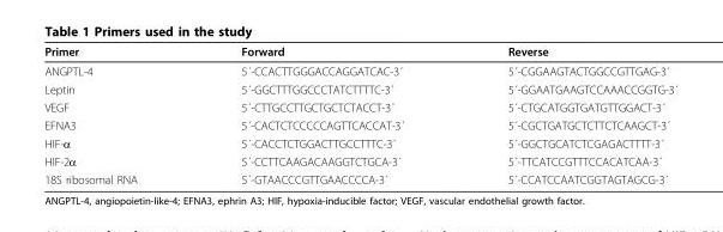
<table><thead><tr><td>Primer</td><td>Forward</td><td>Reverse</td></tr></thead><tbody><tr><td>ANGPTL-4</td><td>5´-CCACTTGGGACCAGGATCAC-3´</td><td>5´-CGGAAGTACTGGCCGTTGAG-3´</td></tr><tr><td>Leptin</td><td>5´-GGCTTTGGCCCTATCTTTTC-3´</td><td>5´-GGAATGAAGTCCAAACCGGTG-3´</td></tr><tr><td>VEGF</td><td>5´-CTTGCCTTGCTGCTCTACCT-3´</td><td>5´-CTGCATGGTGATGTTGGACT-3´</td></tr><tr><td>EFNA3</td><td>5´-CACTCTCCCCCAGTTCACCAT-3´</td><td>5´-CGCTGATGCTCTTCTCAAGCT-3´</td></tr><tr><td>HIF-α</td><td>5´-CACCTCTGGACTTGCCTTTC-3´</td><td>5´-GGCTGCATCTCGAGACTTTT-3´</td></tr><tr><td>HIF-2α</td><td>5´-CCTTCAAGACAAGGTCTGCA-3´</td><td>5´-TTCATCCGTTTCCACATCAA-3´</td></tr><tr><td>18S ribosomal RNA</td><td>5´-GTAACCCGTTGAACCCCA-3´</td><td>5´-CCATCCAATCGGTAGTAGCG-3´</td></tr></tbody></table>